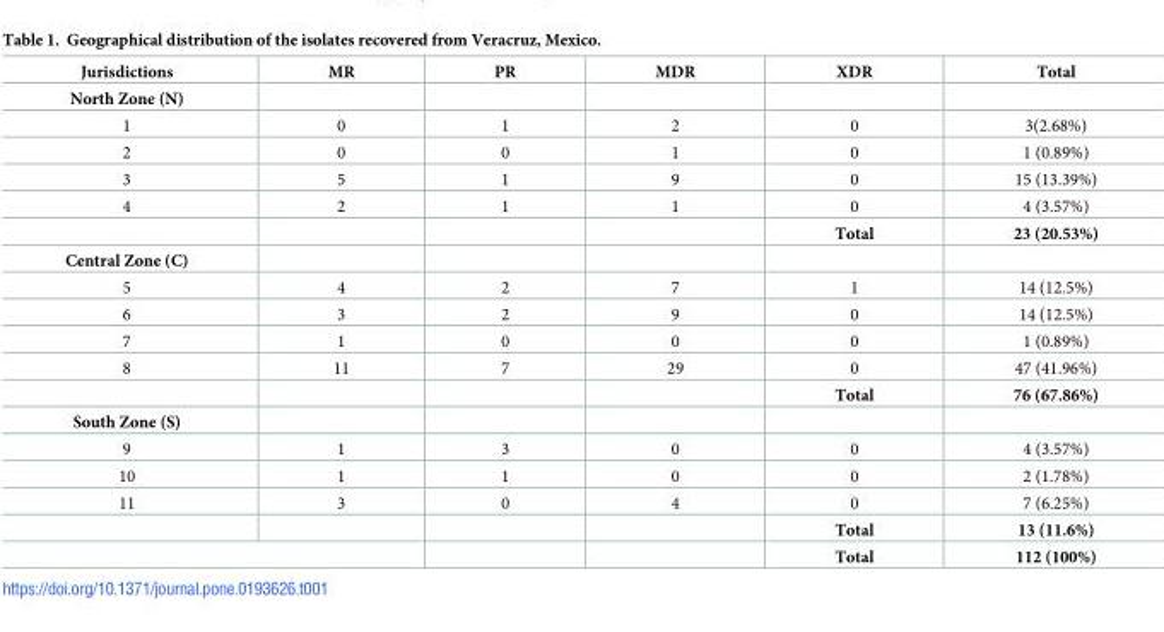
<table><thead><tr><td>Jurisdictions</td><td>MR</td><td>PR</td><td>MDR</td><td>XDR</td><td>Total</td></tr></thead><tbody><tr><td colspan="6">North Zone (N)</td></tr><tr><td>1</td><td>0</td><td>1</td><td>2</td><td>0</td><td>3(2.68%)</td></tr><tr><td>2</td><td>0</td><td>0</td><td>1</td><td>0</td><td>1 (0.89%)</td></tr><tr><td>3</td><td>5</td><td>1</td><td>9</td><td>0</td><td>15 (13.39%)</td></tr><tr><td rowspan="2">4</td><td>2</td><td>1</td><td>1</td><td>0</td><td>4 (3.57%)</td></tr><tr><td></td><td></td><td></td><td>Total</td><td>23 (20.53%)</td></tr><tr><td colspan="6">Central Zone (C)</td></tr><tr><td>5</td><td>4</td><td>2</td><td>7</td><td>1</td><td>14 (12.5%)</td></tr><tr><td>6</td><td>3</td><td>2</td><td>9</td><td>0</td><td>14 (12.5%)</td></tr><tr><td>7</td><td>1</td><td>0</td><td>0</td><td>0</td><td>1 (0.89%)</td></tr><tr><td rowspan="2">8</td><td>11</td><td>7</td><td>29</td><td>0</td><td>47 (41.96%)</td></tr><tr><td></td><td></td><td></td><td>Total</td><td>76 (67.86%)</td></tr><tr><td colspan="6">South Zone (S)</td></tr><tr><td>9</td><td>1</td><td>3</td><td>0</td><td>0</td><td>4 (3.57%)</td></tr><tr><td>10</td><td>1</td><td>1</td><td>0</td><td>0</td><td>2 (1.78%)</td></tr><tr><td rowspan="2">11</td><td>3</td><td>0</td><td>4</td><td>0</td><td>7 (6.25%)</td></tr><tr><td></td><td></td><td></td><td>Total</td><td>13 (11.6%)</td></tr><tr><td colspan="2"></td><td></td><td></td><td>Total</td><td>112 (100%)</td></tr></tbody></table>